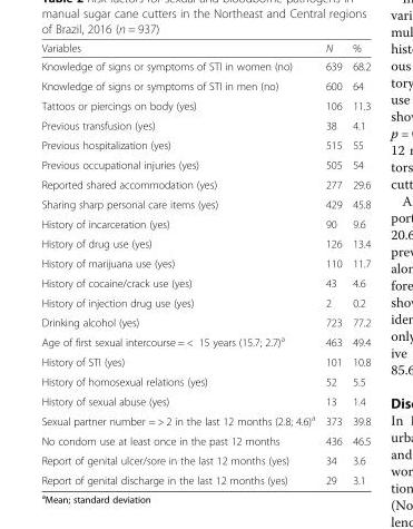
<table><thead><tr><td>Variables</td><td>N</td><td>%</td></tr></thead><tbody><tr><td>Knowledge of signs or symptoms of STI in women (no)</td><td>639</td><td>68.2</td></tr><tr><td>Knowledge of signs or symptoms of STI in men (no)</td><td>600</td><td>64</td></tr><tr><td>Tattoos or piercings on body (yes)</td><td>106</td><td>11.3</td></tr><tr><td>Previous transfusion (yes)</td><td>38</td><td>4.1</td></tr><tr><td>Previous hospitalization (yes)</td><td>515</td><td>55</td></tr><tr><td>Previous occupational injuries (yes)</td><td>505</td><td>54</td></tr><tr><td>Reported shared accommodation (yes)</td><td>277</td><td>29.6</td></tr><tr><td>Sharing sharp personal care items (yes)</td><td>429</td><td>45.8</td></tr><tr><td>History of incarceration (yes)</td><td>90</td><td>9.6</td></tr><tr><td>History of drug use (yes)</td><td>126</td><td>13.4</td></tr><tr><td>History of marijuana use (yes)</td><td>110</td><td>11.7</td></tr><tr><td>History of cocaine/crack use (yes)</td><td>43</td><td>4.6</td></tr><tr><td>History of injection drug use (yes)</td><td>2</td><td>0.2</td></tr><tr><td>Drinking alcohol (yes)</td><td>723</td><td>77.2</td></tr><tr><td>Age of first sexual intercourse = &lt; 15 years (15.7; 2.7)<sup>a</sup></td><td>463</td><td>49.4</td></tr><tr><td>History of STI (yes)</td><td>101</td><td>10.8</td></tr><tr><td>History of homosexual relations (yes)</td><td>52</td><td>5.5</td></tr><tr><td>History of sexual abuse (yes)</td><td>13</td><td>1.4</td></tr><tr><td>Sexual partner number = &gt; 2 in the last 12 months (2.8; 4.6)<sup>a</sup></td><td>373</td><td>39.8</td></tr><tr><td>No condom use at least once in the past 12 months</td><td>436</td><td>46.5</td></tr><tr><td>Report of genital ulcer/sore in the last 12 months (yes)</td><td>34</td><td>3.6</td></tr><tr><td>Report of genital discharge in the last 12 months (yes)</td><td>29</td><td>3.1</td></tr></tbody></table>